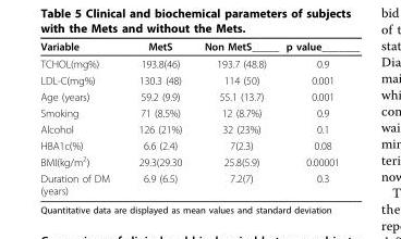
<table><thead><tr><td>Variable</td><td>MetS</td><td>Non MetS_____</td><td>p value_______</td></tr></thead><tbody><tr><td>TCHOL(mg%)</td><td>193.8(46)</td><td>193.7 (48.8)</td><td>0.9</td></tr><tr><td>LDL-C(mg%)</td><td>130.3 (48)</td><td>114 (50)</td><td>0.001</td></tr><tr><td>Age (years)</td><td>59.2 (9.9)</td><td>55.1 (13.7)</td><td>0.001</td></tr><tr><td>Smoking</td><td>71 (8.5%)</td><td>12 (8.7%)</td><td>0.9</td></tr><tr><td>Alcohol</td><td>126 (21%)</td><td>32 (23%)</td><td>0.1</td></tr><tr><td>HBA1c(%)</td><td>6.6 (2.4)</td><td>7(2.3)</td><td>0.08</td></tr><tr><td>BMI(kg/m<sup>2</sup>)</td><td>29.3(29.30</td><td>25.8(5.9)</td><td>0.00001</td></tr><tr><td>Duration of DM (years)</td><td>6.9 (6.5)</td><td>7.2(7)</td><td>0.3</td></tr></tbody></table>